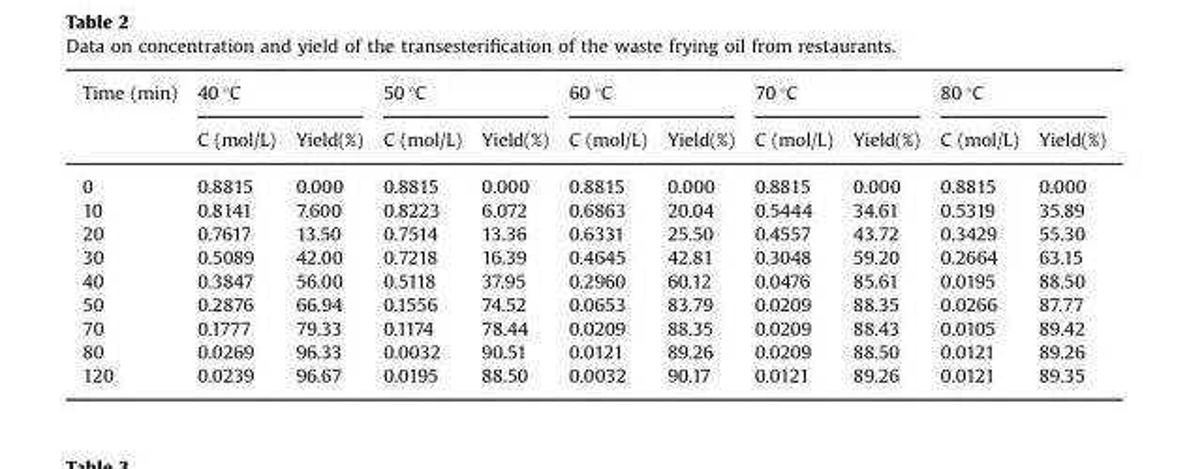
<table><thead><tr><td rowspan="2">Time (min)</td><td colspan="2">40 °C</td><td colspan="2">50 °C</td><td colspan="2">60 °C</td><td colspan="2">70 °C</td><td colspan="2">80 °C</td></tr><tr><td>C (mol/L)</td><td>Yield(%)</td><td>C (mol/L)</td><td>Yield(%)</td><td>C (mol/L)</td><td>Yield(%)</td><td>C (mol/L)</td><td>Yield(%)</td><td>C (mol/L)</td><td>Yield(%)</td></tr></thead><tbody><tr><td>0</td><td>0.8815</td><td>0.000</td><td>0.8815</td><td>0.000</td><td>0.8815</td><td>0.000</td><td>0.8815</td><td>0.000</td><td>0.8815</td><td>0.000</td></tr><tr><td>10</td><td>0.8141</td><td>7.600</td><td>0.8223</td><td>6.072</td><td>0.6863</td><td>20.04</td><td>0.5444</td><td>34.61</td><td>0.5319</td><td>35.89</td></tr><tr><td>20</td><td>0.7617</td><td>13.50</td><td>0.7514</td><td>13.36</td><td>0.6331</td><td>25.50</td><td>0.4557</td><td>43.72</td><td>0.3429</td><td>55.30</td></tr><tr><td>30</td><td>0.5089</td><td>42.00</td><td>0.7218</td><td>16.39</td><td>0.4645</td><td>42.81</td><td>0.3048</td><td>59.20</td><td>0.2664</td><td>63.15</td></tr><tr><td>40</td><td>0.3847</td><td>56.00</td><td>0.5118</td><td>37.95</td><td>0.2960</td><td>60.12</td><td>0.0476</td><td>85.61</td><td>0.0195</td><td>88.50</td></tr><tr><td>50</td><td>0.2876</td><td>66.94</td><td>0.1556</td><td>74.52</td><td>0.0653</td><td>83.79</td><td>0.0209</td><td>88.35</td><td>0.0266</td><td>87.77</td></tr><tr><td>70</td><td>0.1777</td><td>79.33</td><td>0.1174</td><td>78.44</td><td>0.0209</td><td>88.35</td><td>0.0209</td><td>88.43</td><td>0.0105</td><td>89.42</td></tr><tr><td>80</td><td>0.0269</td><td>96.33</td><td>0.0032</td><td>90.51</td><td>0.0121</td><td>89.26</td><td>0.0209</td><td>88.50</td><td>0.0121</td><td>89.26</td></tr><tr><td>120</td><td>0.0239</td><td>96.67</td><td>0.0195</td><td>88.50</td><td>0.0032</td><td>90.17</td><td>0.0121</td><td>89.26</td><td>0.0121</td><td>89.35</td></tr></tbody></table>